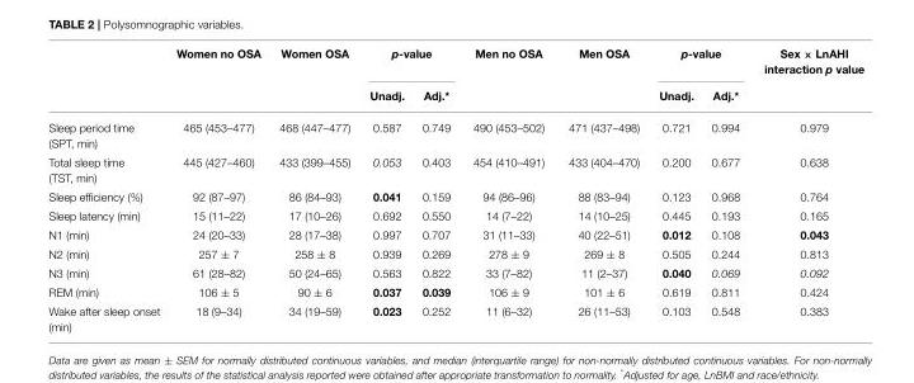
<table><thead><tr><td rowspan="2"></td><td rowspan="2">Women no OSA</td><td rowspan="2">Women OSA</td><td colspan="2">p-value</td><td rowspan="2">Men no OSA</td><td rowspan="2">Men OSA</td><td colspan="2">p-value</td><td rowspan="2">Sex × LnAHI interaction p value</td></tr><tr><td>Unadj.</td><td>Adj.*</td><td>Unadj.</td><td>Adj.*</td></tr></thead><tbody><tr><td>Sleep period time (SPT, min)</td><td>465 (453–477)</td><td>468 (447–477)</td><td>0.587</td><td>0.749</td><td>490 (453–502)</td><td>471 (437–498)</td><td>0.721</td><td>0.994</td><td>0.979</td></tr><tr><td>Total sleep time (TST, min)</td><td>445 (427–460)</td><td>433 (399–455)</td><td>0.053</td><td>0.403</td><td>454 (410–491)</td><td>433 (404–470)</td><td>0.200</td><td>0.677</td><td>0.638</td></tr><tr><td>Sleep efficiency (%)</td><td>92 (87–97)</td><td>86 (84–93)</td><td>0.041</td><td>0.159</td><td>94 (86–96)</td><td>88 (83–94)</td><td>0.123</td><td>0.968</td><td>0.764</td></tr><tr><td>Sleep latency (min)</td><td>15 (11–22)</td><td>17 (10–26)</td><td>0.692</td><td>0.550</td><td>14 (7–22)</td><td>14 (10–25)</td><td>0.445</td><td>0.193</td><td>0.165</td></tr><tr><td>N1 (min)</td><td>24 (20–33)</td><td>28 (17–38)</td><td>0.997</td><td>0.707</td><td>31 (11–33)</td><td>40 (22–51)</td><td>0.012</td><td>0.108</td><td>0.043</td></tr><tr><td>N2 (min)</td><td>257 ± 7</td><td>258 ± 8</td><td>0.939</td><td>0.269</td><td>278 ± 9</td><td>269 ± 8</td><td>0.505</td><td>0.244</td><td>0.813</td></tr><tr><td>N3 (min)</td><td>61 (28–82)</td><td>50 (24–65)</td><td>0.563</td><td>0.822</td><td>33 (7–82)</td><td>11 (2–37)</td><td>0.040</td><td>0.069</td><td>0.092</td></tr><tr><td>REM (min)</td><td>106 ± 5</td><td>90 ± 6</td><td>0.037</td><td>0.039</td><td>106 ± 9</td><td>101 ± 6</td><td>0.619</td><td>0.811</td><td>0.424</td></tr><tr><td>Wake after sleep onset (min)</td><td>18 (9–34)</td><td>34 (19–59)</td><td>0.023</td><td>0.252</td><td>11 (6–32)</td><td>26 (11–53)</td><td>0.103</td><td>0.548</td><td>0.383</td></tr></tbody></table>